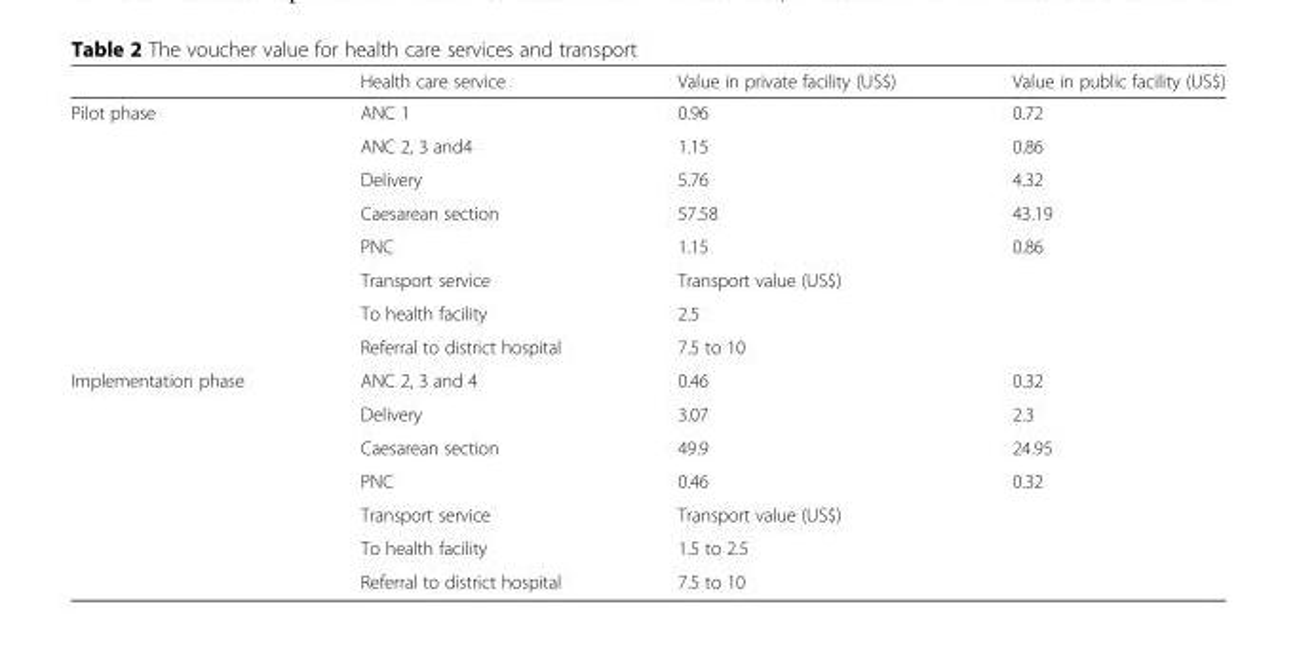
<table><thead><tr><td></td><td>Health care service</td><td>Value in private facility (US$)</td><td>Value in public facility (US$)</td></tr></thead><tbody><tr><td rowspan="8">Pilot phase</td><td>ANC 1</td><td>0.96</td><td>0.72</td></tr><tr><td>ANC 2, 3 and4</td><td>1.15</td><td>0.86</td></tr><tr><td>Delivery</td><td>5.76</td><td>4.32</td></tr><tr><td>Caesarean section</td><td>57.58</td><td>43.19</td></tr><tr><td>PNC</td><td>1.15</td><td>0.86</td></tr><tr><td>Transport service</td><td colspan="2">Transport value (US$)</td></tr><tr><td>To health facility</td><td colspan="2">2.5</td></tr><tr><td>Referral to district hospital</td><td colspan="2">7.5 to 10</td></tr><tr><td rowspan="7">Implementation phase</td><td>ANC 2, 3 and 4</td><td>0.46</td><td>0.32</td></tr><tr><td>Delivery</td><td>3.07</td><td>2.3</td></tr><tr><td>Caesarean section</td><td>49.9</td><td>24.95</td></tr><tr><td>PNC</td><td>0.46</td><td>0.32</td></tr><tr><td>Transport service</td><td colspan="2">Transport value (US$)</td></tr><tr><td>To health facility</td><td colspan="2">1.5 to 2.5</td></tr><tr><td>Referral to district hospital</td><td colspan="2">7.5 to 10</td></tr></tbody></table>